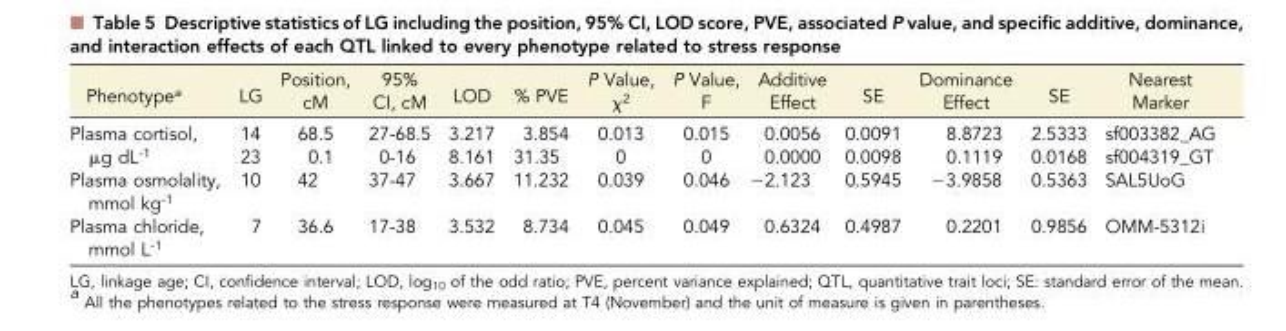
<table><thead><tr><td>Phenotype<sup>a</sup></td><td>LG</td><td>Position, cM</td><td>95% CI, cM</td><td>LOD</td><td>% PVE</td><td>P Value, χ<sup>2</sup></td><td>P Value, F</td><td>Additive Effect</td><td>SE</td><td>Dominance Effect</td><td>SE</td><td>Nearest Marker</td></tr></thead><tbody><tr><td rowspan="2">Plasma cortisol, μg dL<sup>-1</sup></td><td>14</td><td>68.5</td><td>27-68.5</td><td>3.217</td><td>3.854</td><td>0.013</td><td>0.015</td><td>0.0056</td><td>0.0091</td><td>8.8723</td><td>2.5333</td><td>sf003382_AG</td></tr><tr><td>23</td><td>0.1</td><td>0-16</td><td>8.161</td><td>31.35</td><td>0</td><td>0</td><td>0.0000</td><td>0.0098</td><td>0.1119</td><td>0.0168</td><td>sf004319_GT</td></tr><tr><td>Plasma osmolality, mmol kg<sup>-1</sup></td><td>10</td><td>42</td><td>37-47</td><td>3.667</td><td>11.232</td><td>0.039</td><td>0.046</td><td>−2.123</td><td>0.5945</td><td>−3.9858</td><td>0.5363</td><td>SAL5UoG</td></tr><tr><td>Plasma chloride, mmol L<sup>-1</sup></td><td>7</td><td>36.6</td><td>17-38</td><td>3.532</td><td>8.734</td><td>0.045</td><td>0.049</td><td>0.6324</td><td>0.4987</td><td>0.2201</td><td>0.9856</td><td>OMM-5312i</td></tr></tbody></table>